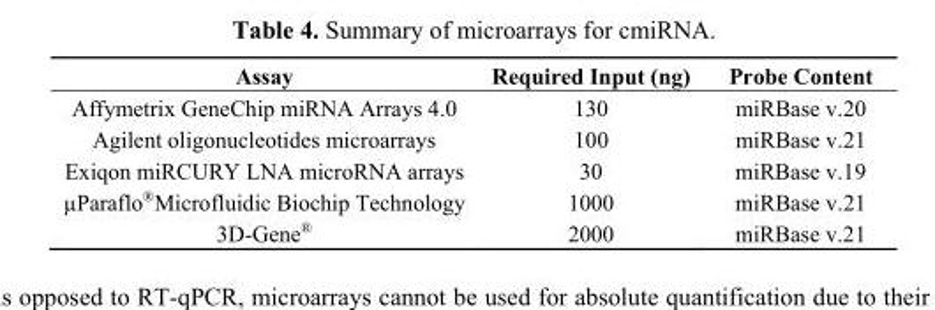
<table><thead><tr><td>Assay</td><td>Required Input (ng)</td><td>Probe Content</td></tr></thead><tbody><tr><td>Affymetrix GeneChip miRNA Arrays 4.0</td><td>130</td><td>miRBase v.20</td></tr><tr><td>Agilent oligonucleotides microarrays</td><td>100</td><td>miRBase v.21</td></tr><tr><td>Exiqon miRCURY LNA microRNA arrays</td><td>30</td><td>miRBase v.19</td></tr><tr><td>µParaflo<sup>®</sup>Microfluidic Biochip Technology</td><td>1000</td><td>miRBase v.21</td></tr><tr><td>3D-Gene<sup>®</sup></td><td>2000</td><td>miRBase v.21</td></tr></tbody></table>